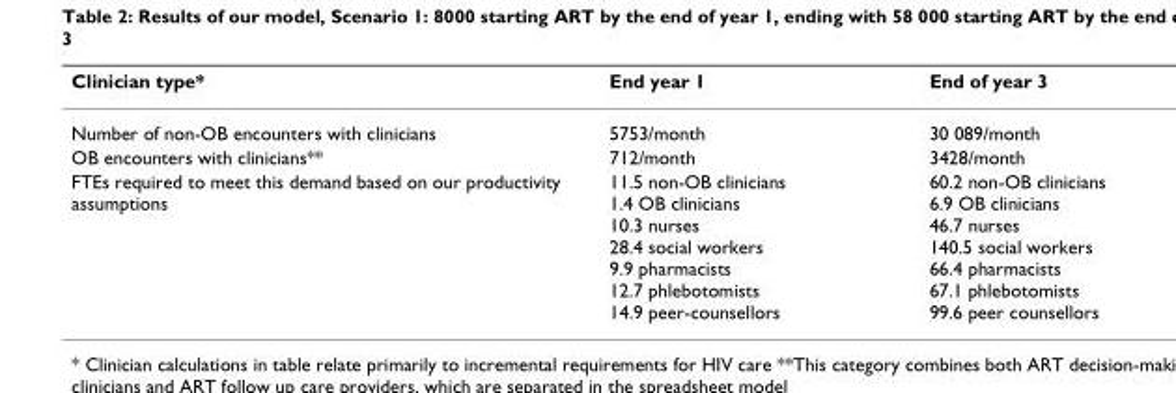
<table><thead><tr><td>Clinician type*</td><td>End year 1</td><td>End of year 3</td></tr></thead><tbody><tr><td>Number of non-OB encounters with clinicians</td><td>5753/month</td><td>30 089/month</td></tr><tr><td>OB encounters with clinicians**</td><td>712/month</td><td>3428/month</td></tr><tr><td>FTEs required to meet this demand based on our productivity assumptions</td><td>11.5 non-OB clinicians 1.4 OB clinicians 10.3 nurses 28.4 social workers 9.9 pharmacists 12.7 phlebotomists 14.9 peer-counsellors</td><td>60.2 non-OB clinicians 6.9 OB clinicians 46.7 nurses 140.5 social workers 66.4 pharmacists 67.1 phlebotomists 99.6 peer counsellors</td></tr></tbody></table>